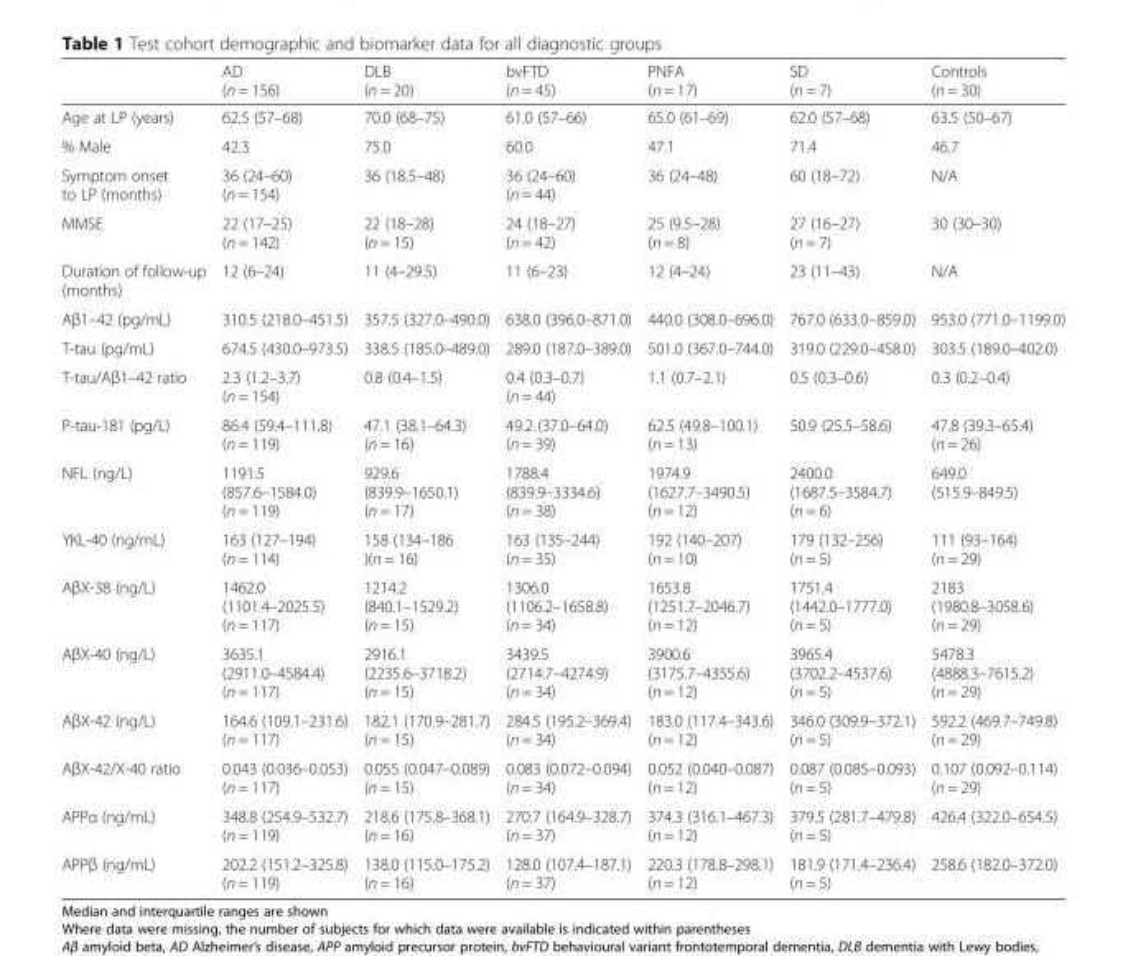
<table><thead><tr><td></td><td>AD (n = 156)</td><td>DLB (n = 20)</td><td>bvFTD (n = 45)</td><td>PNFA (n = 17)</td><td>SD (n = 7)</td><td>Controls (n = 30)</td></tr></thead><tbody><tr><td>Age at LP (years)</td><td>62.5 (57–68)</td><td>70.0 (68–75)</td><td>61.0 (57–66)</td><td>65.0 (61–69)</td><td>62.0 (57–68)</td><td>63.5 (50–67)</td></tr><tr><td>% Male</td><td>42.3</td><td>75.0</td><td>60.0</td><td>47.1</td><td>71.4</td><td>46.7</td></tr><tr><td>Symptom onset to LP (months)</td><td>36 (24–60) (n = 154)</td><td>36 (18.5–48)</td><td>36 (24–60) (n = 44)</td><td>36 (24–48)</td><td>60 (18–72)</td><td>N/A</td></tr><tr><td>MMSE</td><td>22 (17–25) (n = 142)</td><td>22 (18–28) (n = 15)</td><td>24 (18–27) (n = 42)</td><td>25 (9.5–28) (n = 8)</td><td>27 (16–27) (n = 7)</td><td>30 (30–30)</td></tr><tr><td>Duration of follow-up (months)</td><td>12 (6–24)</td><td>11 (4–29.5)</td><td>11 (6–23)</td><td>12 (4–24)</td><td>23 (11–43)</td><td>N/A</td></tr><tr><td>Aβ1–42 (pg/mL)</td><td>310.5 (218.0–451.5)</td><td>357.5 (327.0–490.0)</td><td>638.0 (396.0–871.0)</td><td>440.0 (308.0–696.0)</td><td>767.0 (633.0–859.0)</td><td>953.0 (771.0–1199.0)</td></tr><tr><td>T-tau (pg/mL)</td><td>674.5 (430.0–973.5)</td><td>338.5 (185.0–489.0)</td><td>289.0 (187.0–389.0)</td><td>501.0 (367.0–744.0)</td><td>319.0 (229.0–458.0)</td><td>303.5 (189.0–402.0)</td></tr><tr><td>T-tau/Aβ1–42 ratio</td><td>2.3 (1.2–3.7) (n = 154)</td><td>0.8 (0.4–1.5)</td><td>0.4 (0.3–0.7) (n = 44)</td><td>1.1 (0.7–2.1)</td><td>0.5 (0.3–0.6)</td><td>0.3 (0.2–0.4)</td></tr><tr><td>P-tau-181 (pg/L)</td><td>86.4 (59.4–111.8) (n = 119)</td><td>47.1 (38.1–64.3) (n = 16)</td><td>49.2 (37.0–64.0) (n = 39)</td><td>62.5 (49.8–100.1) (n = 13)</td><td>50.9 (25.5–58.6)</td><td>47.8 (39.3–65.4) (n = 26)</td></tr><tr><td>NFL (ng/L)</td><td>1191.5 (857.6–1584.0) (n = 119)</td><td>929.6 (839.9–1650.1) (n = 17)</td><td>1788.4 (839.9–3334.6) (n = 38)</td><td>1974.9 (1627.7–3490.5) (n = 12)</td><td>2400.0 (1687.5–3584.7) (n = 6)</td><td>649.0 (515.9–849.5)</td></tr><tr><td>YKL-40 (ng/mL)</td><td>163 (127–194) (n = 114)</td><td>158 (134–186 )(n = 16)</td><td>163 (135–244) (n = 35)</td><td>192 (140–207) (n = 10)</td><td>179 (132–256) (n = 5)</td><td>111 (93–164) (n = 29)</td></tr><tr><td>AβX-38 (ng/L)</td><td>1462.0 (1101.4–2025.5) (n = 117)</td><td>1214.2 (840.1–1529.2) (n = 15)</td><td>1306.0 (1106.2–1658.8) (n = 34)</td><td>1653.8 (1251.7–2046.7) (n = 12)</td><td>1751.4 (1442.0–1777.0) (n = 5)</td><td>2183 (1980.8–3058.6) (n = 29)</td></tr><tr><td>AβX-40 (ng/L)</td><td>3635.1 (2911.0–4584.4) (n = 117)</td><td>2916.1 (2235.6–3718.2) (n = 15)</td><td>3439.5 (2714.7–4274.9) (n = 34)</td><td>3900.6 (3175.7–4355.6) (n = 12)</td><td>3965.4 (3702.2–4537.6) (n = 5)</td><td>5478.3 (4888.3–7615.2) (n = 29)</td></tr><tr><td>AβX-42 (ng/L)</td><td>164.6 (109.1–231.6) (n = 117)</td><td>182.1 (170.9–281.7) (n = 15)</td><td>284.5 (195.2–369.4) (n = 34)</td><td>183.0 (117.4–343.6) (n = 12)</td><td>346.0 (309.9–372.1) (n = 5)</td><td>592.2 (469.7–749.8) (n = 29)</td></tr><tr><td>AβX-42/X-40 ratio</td><td>0.043 (0.036–0.053) (n = 117)</td><td>0.055 (0.047–0.089) (n = 15)</td><td>0.083 (0.072–0.094) (n = 34)</td><td>0.052 (0.040–0.087) (n = 12)</td><td>0.087 (0.085–0.093) (n = 5)</td><td>0.107 (0.092–0.114) (n = 29)</td></tr><tr><td>APPα (ng/mL)</td><td>348.8 (254.9–532.7) (n = 119)</td><td>218.6 (175.8–368.1) (n = 16)</td><td>270.7 (164.9–328.7) (n = 37)</td><td>374.3 (316.1–467.3) (n = 12)</td><td>379.5 (281.7–479.8) (n = 5)</td><td>426.4 (322.0–654.5)</td></tr><tr><td>APPβ (ng/mL)</td><td>202.2 (151.2–325.8) (n = 119)</td><td>138.0 (115.0–175.2) (n = 16)</td><td>128.0 (107.4–187.1) (n = 37)</td><td>220.3 (178.8–298.1) (n = 12)</td><td>181.9 (171.4–236.4) (n = 5)</td><td>258.6 (182.0–372.0)</td></tr></tbody></table>